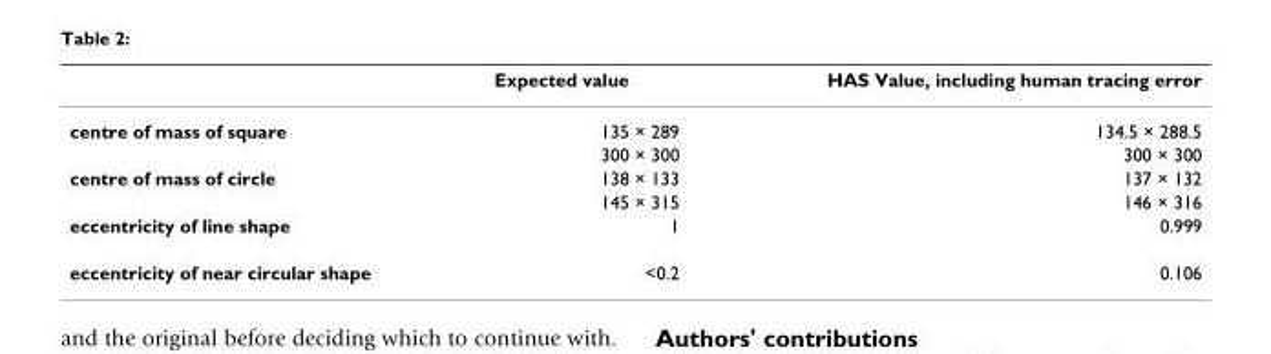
<table><thead><tr><td></td><td>Expected value</td><td>HAS Value, including human tracing error</td></tr></thead><tbody><tr><td rowspan="2">centre of mass of square</td><td>135 × 289</td><td>134.5 × 288.5</td></tr><tr><td>300 × 300</td><td>300 × 300</td></tr><tr><td rowspan="2">centre of mass of circle</td><td>138 × 133</td><td>137 × 132</td></tr><tr><td>145 × 315</td><td>146 × 316</td></tr><tr><td>eccentricity of line shape</td><td>1</td><td>0.999</td></tr><tr><td>eccentricity of near circular shape</td><td>&lt;0.2</td><td>0.106</td></tr></tbody></table>